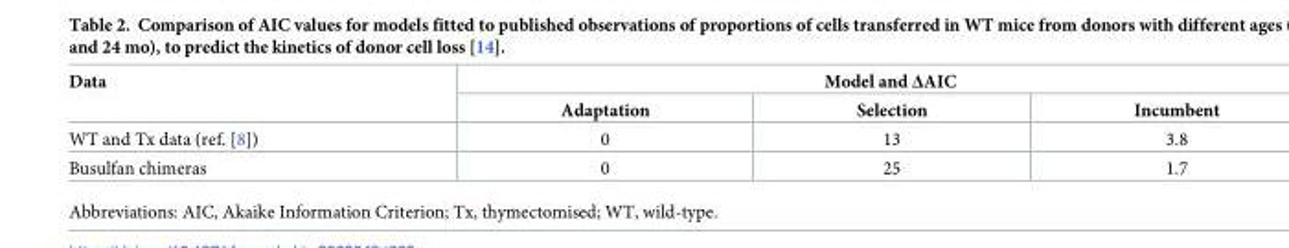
<table><thead><tr><td rowspan="2">Data</td><td colspan="3">Model and ΔAIC</td></tr><tr><td>Adaptation</td><td>Selection</td><td>Incumbent</td></tr></thead><tbody><tr><td>WT and Tx data (ref. [8])</td><td>0</td><td>13</td><td>3.8</td></tr><tr><td>Busulfan chimeras</td><td>0</td><td>25</td><td>1.7</td></tr></tbody></table>